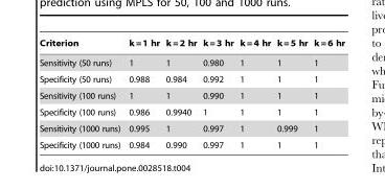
<table><thead><tr><td>Criterion</td><td>k=1 hr</td><td>k=2 hr</td><td>k=3 hr</td><td>k=4 hr</td><td>k=5 hr</td><td>k=6 hr</td></tr></thead><tbody><tr><td>Sensitivity (50 runs)</td><td>1</td><td>1</td><td>0.980</td><td>1</td><td>1</td><td>1</td></tr><tr><td>Specificity (50 runs)</td><td>0.988</td><td>0.984</td><td>0.992</td><td>1</td><td>1</td><td>1</td></tr><tr><td>Sensitivity (100 runs)</td><td>1</td><td>1</td><td>0.990</td><td>1</td><td>1</td><td>1</td></tr><tr><td>Specificity (100 runs)</td><td>0.986</td><td>0.9940</td><td>1</td><td>1</td><td>1</td><td>1</td></tr><tr><td>Sensitivity (1000 runs)</td><td>0.995</td><td>1</td><td>0.997</td><td>1</td><td>0.999</td><td>1</td></tr><tr><td>Specificity (1000 runs)</td><td>0.984</td><td>0.990</td><td>0.997</td><td>1</td><td>1</td><td>1</td></tr></tbody></table>